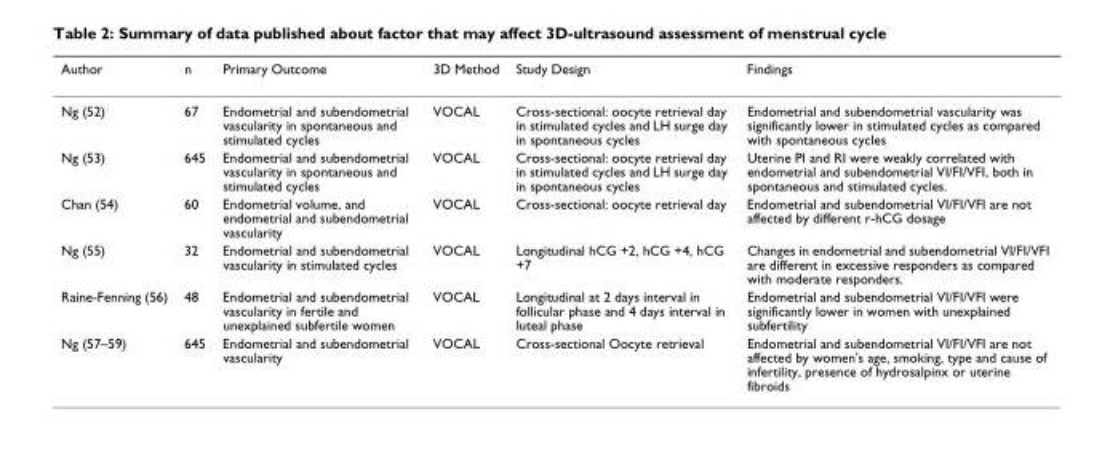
<table><thead><tr><td>Author</td><td>n</td><td>Primary Outcome</td><td>3D Method</td><td>Study Design</td><td>Findings</td></tr></thead><tbody><tr><td>Ng (52)</td><td>67</td><td>Endometrial and subendometrial vascularity in spontaneous and stimulated cycles</td><td>VOCAL</td><td>Cross-sectional: oocyte retrieval day in stimulated cycles and LH surge day in spontaneous cycles</td><td>Endometrial and subendometrial vascularity was significantly lower in stimulated cycles as compared with spontaneous cycles</td></tr><tr><td>Ng (53)</td><td>645</td><td>Endometrial and subendometrial vascularity in spontaneous and stimulated cycles</td><td>VOCAL</td><td>Cross-sectional: oocyte retrieval day in stimulated cycles and LH surge day in spontaneous cycles</td><td>Uterine PI and RI were weakly correlated with endometrial and subendometrial VI/FI/VFI, both in spontaneous and stimulated cycles.</td></tr><tr><td>Chan (54)</td><td>60</td><td>Endometrial volume, and endometrial and subendometrial vascularity</td><td>VOCAL</td><td>Cross-sectional: oocyte retrieval day</td><td>Endometrial and subendometrial VI/FI/VFI are not affected by different r-hCG dosage</td></tr><tr><td>Ng (55)</td><td>32</td><td>Endometrial and subendometrial vascularity in stimulated cycles</td><td>VOCAL</td><td>Longitudinal hCG +2, hCG +4, hCG +7</td><td>Changes in endometrial and subendometrial VI/FI/VFI are different in excessive responders as compared with moderate responders.</td></tr><tr><td>Raine-Fenning (56)</td><td>48</td><td>Endometrial and subendometrial vascularity in fertile and unexplained subfertile women</td><td>VOCAL</td><td>Longitudinal at 2 days interval in follicular phase and 4 days interval in luteal phase</td><td>Endometrial and subendometrial VI/FI/VFI were significantly lower in women with unexplained subfertility</td></tr><tr><td>Ng (57–59)</td><td>645</td><td>Endometrial and subendometrial vascularity</td><td>VOCAL</td><td>Cross-sectional Oocyte retrieval</td><td>Endometrial and subendometrial VI/FI/VFI are not affected by women&#x27;s age, smoking, type and cause of infertility, presence of hydrosalpinx or uterine fibroids</td></tr></tbody></table>